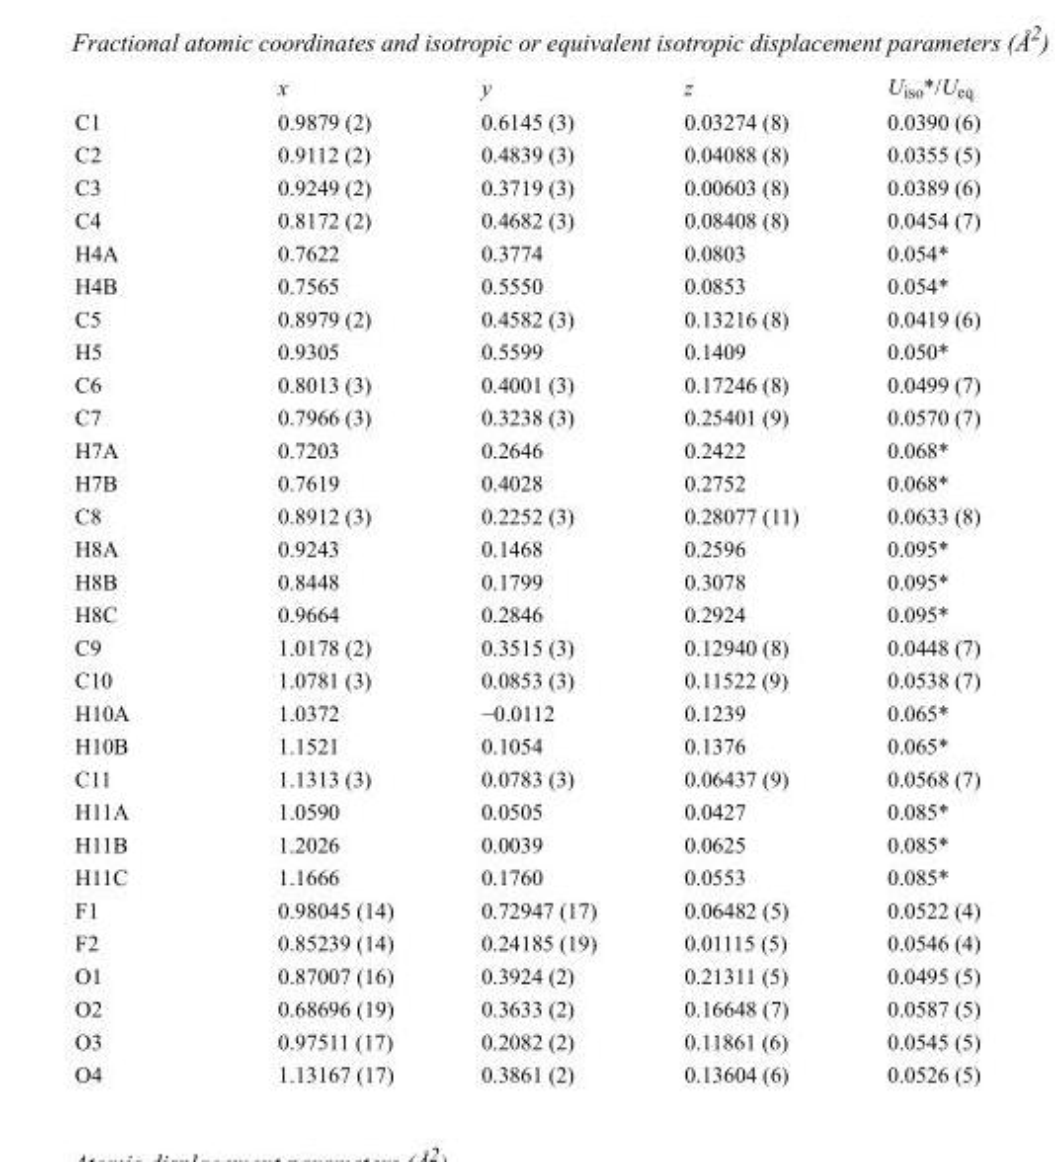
<table><thead><tr><td></td><td>x</td><td>y</td><td>z</td><td>U<sub>iso</sub>*/U<sub>eq</sub></td></tr></thead><tbody><tr><td>C1</td><td>0.9879 (2)</td><td>0.6145 (3)</td><td>0.03274 (8)</td><td>0.0390 (6)</td></tr><tr><td>C2</td><td>0.9112 (2)</td><td>0.4839 (3)</td><td>0.04088 (8)</td><td>0.0355 (5)</td></tr><tr><td>C3</td><td>0.9249 (2)</td><td>0.3719 (3)</td><td>0.00603 (8)</td><td>0.0389 (6)</td></tr><tr><td>C4</td><td>0.8172 (2)</td><td>0.4682 (3)</td><td>0.08408 (8)</td><td>0.0454 (7)</td></tr><tr><td>H4A</td><td>0.7622</td><td>0.3774</td><td>0.0803</td><td>0.054*</td></tr><tr><td>H4B</td><td>0.7565</td><td>0.5550</td><td>0.0853</td><td>0.054*</td></tr><tr><td>C5</td><td>0.8979 (2)</td><td>0.4582 (3)</td><td>0.13216 (8)</td><td>0.0419 (6)</td></tr><tr><td>H5</td><td>0.9305</td><td>0.5599</td><td>0.1409</td><td>0.050*</td></tr><tr><td>C6</td><td>0.8013 (3)</td><td>0.4001 (3)</td><td>0.17246 (8)</td><td>0.0499 (7)</td></tr><tr><td>C7</td><td>0.7966 (3)</td><td>0.3238 (3)</td><td>0.25401 (9)</td><td>0.0570 (7)</td></tr><tr><td>H7A</td><td>0.7203</td><td>0.2646</td><td>0.2422</td><td>0.068*</td></tr><tr><td>H7B</td><td>0.7619</td><td>0.4028</td><td>0.2752</td><td>0.068*</td></tr><tr><td>C8</td><td>0.8912 (3)</td><td>0.2252 (3)</td><td>0.28077 (11)</td><td>0.0633 (8)</td></tr><tr><td>H8A</td><td>0.9243</td><td>0.1468</td><td>0.2596</td><td>0.095*</td></tr><tr><td>H8B</td><td>0.8448</td><td>0.1799</td><td>0.3078</td><td>0.095*</td></tr><tr><td>H8C</td><td>0.9664</td><td>0.2846</td><td>0.2924</td><td>0.095*</td></tr><tr><td>C9</td><td>1.0178 (2)</td><td>0.3515 (3)</td><td>0.12940 (8)</td><td>0.0448 (7)</td></tr><tr><td>C10</td><td>1.0781 (3)</td><td>0.0853 (3)</td><td>0.11522 (9)</td><td>0.0538 (7)</td></tr><tr><td>H10A</td><td>1.0372</td><td>−0.0112</td><td>0.1239</td><td>0.065*</td></tr><tr><td>H10B</td><td>1.1521</td><td>0.1054</td><td>0.1376</td><td>0.065*</td></tr><tr><td>C11</td><td>1.1313 (3)</td><td>0.0783 (3)</td><td>0.06437 (9)</td><td>0.0568 (7)</td></tr><tr><td>H11A</td><td>1.0590</td><td>0.0505</td><td>0.0427</td><td>0.085*</td></tr><tr><td>H11B</td><td>1.2026</td><td>0.0039</td><td>0.0625</td><td>0.085*</td></tr><tr><td>H11C</td><td>1.1666</td><td>0.1760</td><td>0.0553</td><td>0.085*</td></tr><tr><td>F1</td><td>0.98045 (14)</td><td>0.72947 (17)</td><td>0.06482 (5)</td><td>0.0522 (4)</td></tr><tr><td>F2</td><td>0.85239 (14)</td><td>0.24185 (19)</td><td>0.01115 (5)</td><td>0.0546 (4)</td></tr><tr><td>O1</td><td>0.87007 (16)</td><td>0.3924 (2)</td><td>0.21311 (5)</td><td>0.0495 (5)</td></tr><tr><td>O2</td><td>0.68696 (19)</td><td>0.3633 (2)</td><td>0.16648 (7)</td><td>0.0587 (5)</td></tr><tr><td>O3</td><td>0.97511 (17)</td><td>0.2082 (2)</td><td>0.11861 (6)</td><td>0.0545 (5)</td></tr><tr><td>O4</td><td>1.13167 (17)</td><td>0.3861 (2)</td><td>0.13604 (6)</td><td>0.0526 (5)</td></tr></tbody></table>